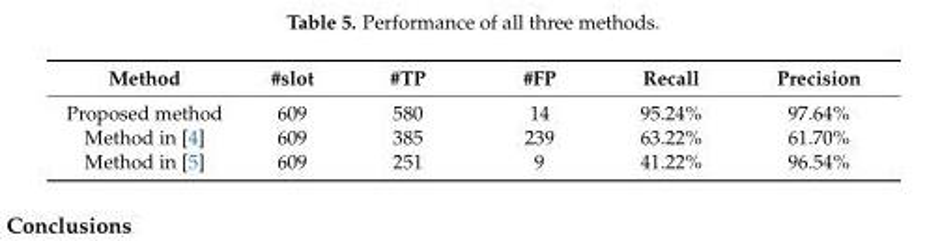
<table><thead><tr><td>Method</td><td>#slot</td><td>#TP</td><td>#FP</td><td>Recall</td><td>Precision</td></tr></thead><tbody><tr><td>Proposed method</td><td>609</td><td>580</td><td>14</td><td>95.24%</td><td>97.64%</td></tr><tr><td>Method in [4]</td><td>609</td><td>385</td><td>239</td><td>63.22%</td><td>61.70%</td></tr><tr><td>Method in [5]</td><td>609</td><td>251</td><td>9</td><td>41.22%</td><td>96.54%</td></tr></tbody></table>